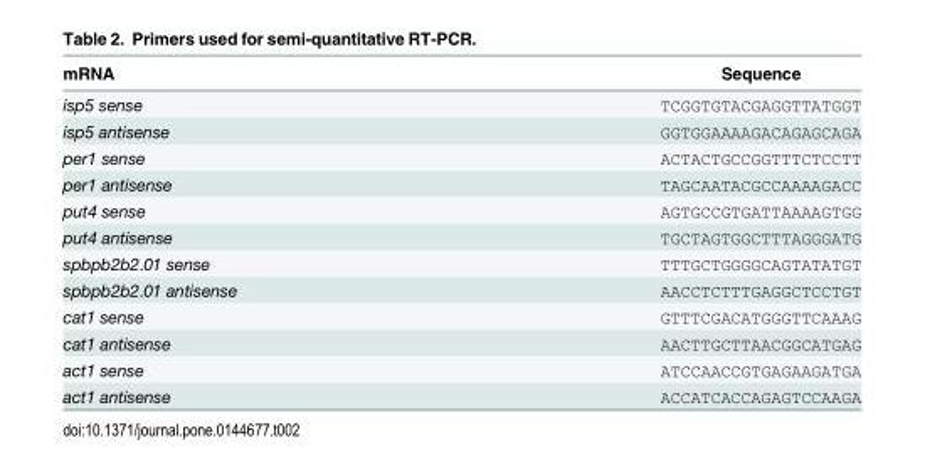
<table><thead><tr><td>mRNA</td><td>Sequence</td></tr></thead><tbody><tr><td>isp5 sense</td><td>TCGGTGTACGAGGTTATGGT</td></tr><tr><td>isp5 antisense</td><td>GGTGGAAAAGACAGAGCAGA</td></tr><tr><td>per1 sense</td><td>ACTACTGCCGGTTTCTCCTT</td></tr><tr><td>per1 antisense</td><td>TAGCAATACGCCAAAAGACC</td></tr><tr><td>put4 sense</td><td>AGTGCCGTGATTAAAAGTGG</td></tr><tr><td>put4 antisense</td><td>TGCTAGTGGCTTTAGGGATG</td></tr><tr><td>spbpb2b2.01 sense</td><td>TTTGCTGGGGCAGTATATGT</td></tr><tr><td>spbpb2b2.01 antisense</td><td>AACCTCTTTGAGGCTCCTGT</td></tr><tr><td>cat1 sense</td><td>GTTTCGACATGGGTTCAAAG</td></tr><tr><td>cat1 antisense</td><td>AACTTGCTTAACGGCATGAG</td></tr><tr><td>act1 sense</td><td>ATCCAACCGTGAGAAGATGA</td></tr><tr><td>act1 antisense</td><td>ACCATCACCAGAGTCCAAGA</td></tr></tbody></table>